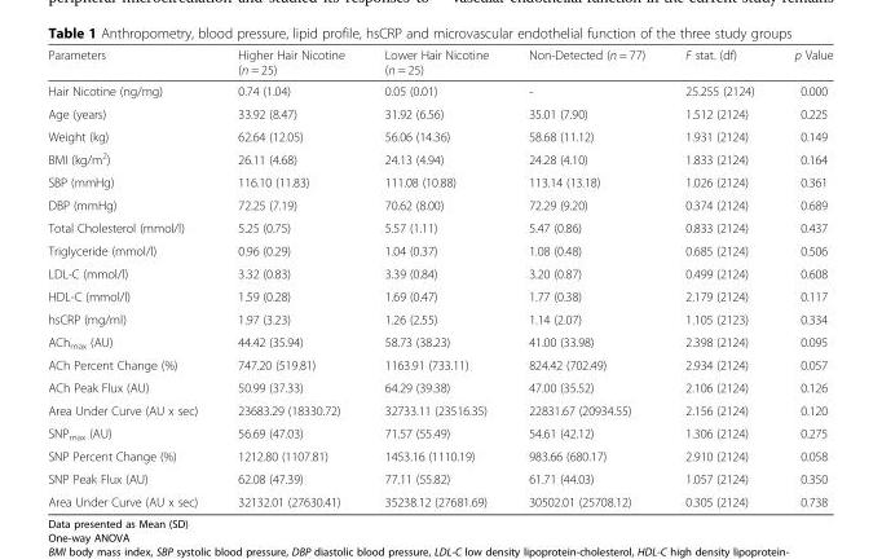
<table><thead><tr><td>Parameters</td><td>Higher Hair Nicotine (n = 25)</td><td>Lower Hair Nicotine (n = 25)</td><td>Non-Detected (n = 77)</td><td>F stat. (df)</td><td>p Value</td></tr></thead><tbody><tr><td>Hair Nicotine (ng/mg)</td><td>0.74 (1.04)</td><td>0.05 (0.01)</td><td>-</td><td>25.255 (2124)</td><td>0.000</td></tr><tr><td>Age (years)</td><td>33.92 (8.47)</td><td>31.92 (6.56)</td><td>35.01 (7.90)</td><td>1.512 (2124)</td><td>0.225</td></tr><tr><td>Weight (kg)</td><td>62.64 (12.05)</td><td>56.06 (14.36)</td><td>58.68 (11.12)</td><td>1.931 (2124)</td><td>0.149</td></tr><tr><td>BMI (kg/m<sup>2</sup>)</td><td>26.11 (4.68)</td><td>24.13 (4.94)</td><td>24.28 (4.10)</td><td>1.833 (2124)</td><td>0.164</td></tr><tr><td>SBP (mmHg)</td><td>116.10 (11.83)</td><td>111.08 (10.88)</td><td>113.14 (13.18)</td><td>1.026 (2124)</td><td>0.361</td></tr><tr><td>DBP (mmHg)</td><td>72.25 (7.19)</td><td>70.62 (8.00)</td><td>72.29 (9.20)</td><td>0.374 (2124)</td><td>0.689</td></tr><tr><td>Total Cholesterol (mmol/l)</td><td>5.25 (0.75)</td><td>5.57 (1.11)</td><td>5.47 (0.86)</td><td>0.833 (2124)</td><td>0.437</td></tr><tr><td>Triglyceride (mmol/l)</td><td>0.96 (0.29)</td><td>1.04 (0.37)</td><td>1.08 (0.48)</td><td>0.685 (2124)</td><td>0.506</td></tr><tr><td>LDL-C (mmol/l)</td><td>3.32 (0.83)</td><td>3.39 (0.84)</td><td>3.20 (0.87)</td><td>0.499 (2124)</td><td>0.608</td></tr><tr><td>HDL-C (mmol/l)</td><td>1.59 (0.28)</td><td>1.69 (0.47)</td><td>1.77 (0.38)</td><td>2.179 (2124)</td><td>0.117</td></tr><tr><td>hsCRP (mg/ml)</td><td>1.97 (3.23)</td><td>1.26 (2.55)</td><td>1.14 (2.07)</td><td>1.105 (2123)</td><td>0.334</td></tr><tr><td>ACh<sub>max</sub> (AU)</td><td>44.42 (35.94)</td><td>58.73 (38.23)</td><td>41.00 (33.98)</td><td>2.398 (2124)</td><td>0.095</td></tr><tr><td>ACh Percent Change (%)</td><td>747.20 (519.81)</td><td>1163.91 (733.11)</td><td>824.42 (702.49)</td><td>2.934 (2124)</td><td>0.057</td></tr><tr><td>ACh Peak Flux (AU)</td><td>50.99 (37.33)</td><td>64.29 (39.38)</td><td>47.00 (35.52)</td><td>2.106 (2124)</td><td>0.126</td></tr><tr><td>Area Under Curve (AU x sec)</td><td>23683.29 (18330.72)</td><td>32733.11 (23516.35)</td><td>22831.67 (20934.55)</td><td>2.156 (2124)</td><td>0.120</td></tr><tr><td>SNP<sub>max</sub> (AU)</td><td>56.69 (47.03)</td><td>71.57 (55.49)</td><td>54.61 (42.12)</td><td>1.306 (2124)</td><td>0.275</td></tr><tr><td>SNP Percent Change (%)</td><td>1212.80 (1107.81)</td><td>1453.16 (1110.19)</td><td>983.66 (680.17)</td><td>2.910 (2124)</td><td>0.058</td></tr><tr><td>SNP Peak Flux (AU)</td><td>62.08 (47.39)</td><td>77.11 (55.82)</td><td>61.71 (44.03)</td><td>1.057 (2124)</td><td>0.350</td></tr><tr><td>Area Under Curve (AU x sec)</td><td>32132.01 (27630.41)</td><td>35238.12 (27681.69)</td><td>30502.01 (25708.12)</td><td>0.305 (2124)</td><td>0.738</td></tr></tbody></table>